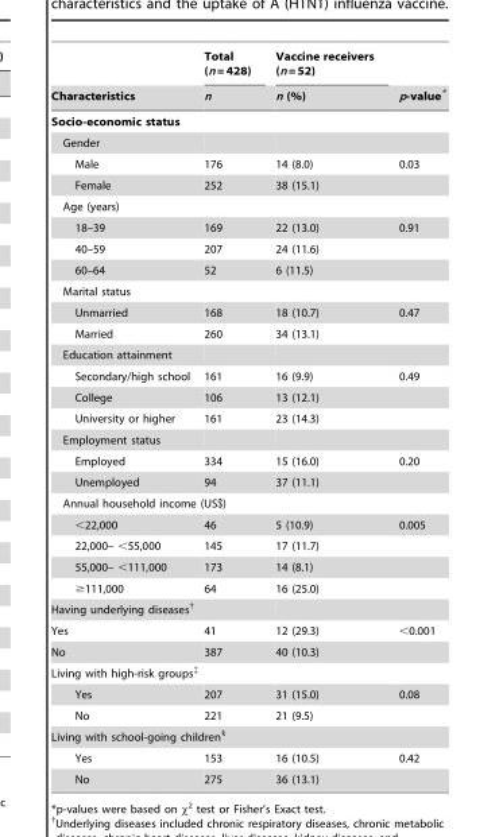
<table><thead><tr><td rowspan="2">Characteristics</td><td rowspan="2">Total (n = 428) n</td><td rowspan="2">Vaccine receivers (n = 52) n (%)</td><td rowspan="2">p-value*</td></tr><tr></tr></thead><tbody><tr><td colspan="4">Socio-economic status</td></tr><tr><td colspan="4">Gender</td></tr><tr><td>Male</td><td>176</td><td>14 (8.0)</td><td>0.03</td></tr><tr><td>Female</td><td>252</td><td>38 (15.1)</td><td></td></tr><tr><td colspan="4">Age (years)</td></tr><tr><td>18–39</td><td>169</td><td>22 (13.0)</td><td>0.91</td></tr><tr><td>40–59</td><td>207</td><td>24 (11.6)</td><td></td></tr><tr><td>60–64</td><td>52</td><td>6 (11.5)</td><td></td></tr><tr><td colspan="4">Marital status</td></tr><tr><td>Unmarried</td><td>168</td><td>18 (10.7)</td><td>0.47</td></tr><tr><td>Married</td><td>260</td><td>34 (13.1)</td><td></td></tr><tr><td colspan="4">Education attainment</td></tr><tr><td>Secondary/high school</td><td>161</td><td>16 (9.9)</td><td>0.49</td></tr><tr><td>College</td><td>106</td><td>13 (12.1)</td><td></td></tr><tr><td>University or higher</td><td>161</td><td>23 (14.3)</td><td></td></tr><tr><td colspan="4">Employment status</td></tr><tr><td>Employed</td><td>334</td><td>15 (16.0)</td><td>0.20</td></tr><tr><td>Unemployed</td><td>94</td><td>37 (11.1)</td><td></td></tr><tr><td colspan="4">Annual household income (US$)</td></tr><tr><td>&lt;22,000</td><td>46</td><td>5 (10.9)</td><td>0.005</td></tr><tr><td>22,000– &lt;55,000</td><td>145</td><td>17 (11.7)</td><td></td></tr><tr><td>55,000– &lt;111,000</td><td>173</td><td>14 (8.1)</td><td></td></tr><tr><td>≥111,000</td><td>64</td><td>16 (25.0)</td><td></td></tr><tr><td colspan="4">Having underlying diseases†</td></tr><tr><td>Yes</td><td>41</td><td>12 (29.3)</td><td>&lt;0.001</td></tr><tr><td>No</td><td>387</td><td>40 (10.3)</td><td></td></tr><tr><td colspan="4">Living with high-risk groups‡</td></tr><tr><td>Yes</td><td>207</td><td>31 (15.0)</td><td>0.08</td></tr><tr><td>No</td><td>221</td><td>21 (9.5)</td><td></td></tr><tr><td colspan="4">Living with school-going children§</td></tr><tr><td>Yes</td><td>153</td><td>16 (10.5)</td><td>0.42</td></tr><tr><td>No</td><td>275</td><td>36 (13.1)</td><td></td></tr></tbody></table>